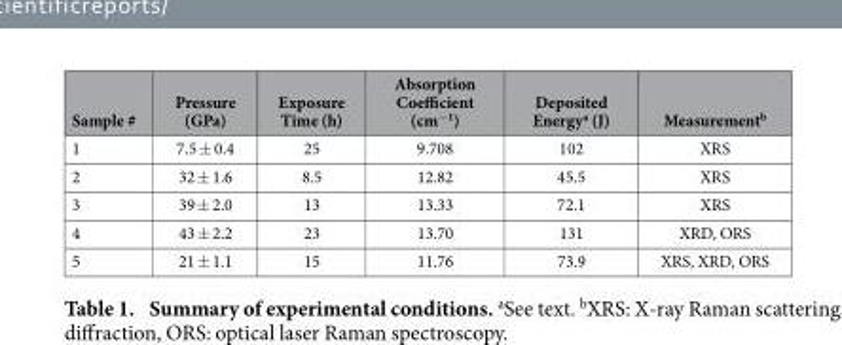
<table><thead><tr><td>Sample #</td><td>Pressure (GPa)</td><td>Exposure Time (h)</td><td>Absorption Coefficient (cm<sup>−1</sup>)</td><td>Deposited Energy<sup>a</sup> (J)</td><td>Measurement<sup>b</sup></td></tr></thead><tbody><tr><td>1</td><td>7.5 ± 0.4</td><td>25</td><td>9.708</td><td>102</td><td>XRS</td></tr><tr><td>2</td><td>32 ± 1.6</td><td>8.5</td><td>12.82</td><td>45.5</td><td>XRS</td></tr><tr><td>3</td><td>39 ± 2.0</td><td>13</td><td>13.33</td><td>72.1</td><td>XRS</td></tr><tr><td>4</td><td>43 ± 2.2</td><td>23</td><td>13.70</td><td>131</td><td>XRD, ORS</td></tr><tr><td>5</td><td>21 ± 1.1</td><td>15</td><td>11.76</td><td>73.9</td><td>XRS, XRD, ORS</td></tr></tbody></table>